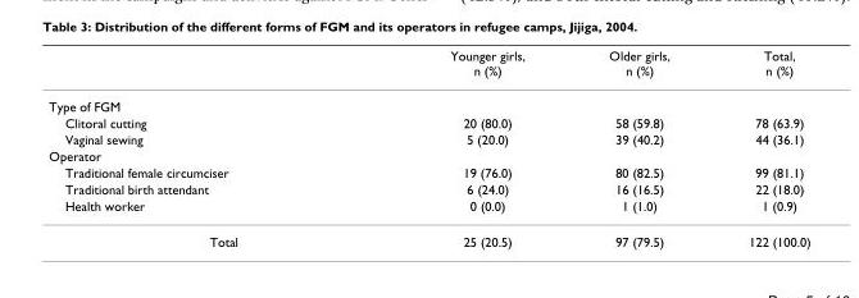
<table><thead><tr><td></td><td>Younger girls, n (%)</td><td>Older girls, n (%)</td><td>Total, n (%)</td></tr></thead><tbody><tr><td colspan="4">Type of FGM</td></tr><tr><td>Clitoral cutting</td><td>20 (80.0)</td><td>58 (59.8)</td><td>78 (63.9)</td></tr><tr><td>Vaginal sewing</td><td>5 (20.0)</td><td>39 (40.2)</td><td>44 (36.1)</td></tr><tr><td colspan="4">Operator</td></tr><tr><td>Traditional female circumciser</td><td>19 (76.0)</td><td>80 (82.5)</td><td>99 (81.1)</td></tr><tr><td>Traditional birth attendant</td><td>6 (24.0)</td><td>16 (16.5)</td><td>22 (18.0)</td></tr><tr><td>Health worker</td><td>0 (0.0)</td><td>1 (1.0)</td><td>1 (0.9)</td></tr><tr><td>Total</td><td>25 (20.5)</td><td>97 (79.5)</td><td>122 (100.0)</td></tr></tbody></table>